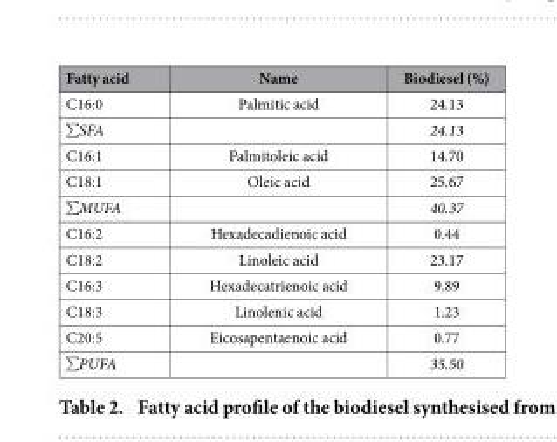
<table><thead><tr><td>Fatty acid</td><td>Name</td><td>Biodiesel (%)</td></tr></thead><tbody><tr><td>C16:0</td><td>Palmitic acid</td><td>24.13</td></tr><tr><td>∑SFA</td><td></td><td>24.13</td></tr><tr><td>C16:1</td><td>Palmitoleic acid</td><td>14.70</td></tr><tr><td>C18:1</td><td>Oleic acid</td><td>25.67</td></tr><tr><td>∑MUFA</td><td></td><td>40.37</td></tr><tr><td>C16:2</td><td>Hexadecadienoic acid</td><td>0.44</td></tr><tr><td>C18:2</td><td>Linoleic acid</td><td>23.17</td></tr><tr><td>C16:3</td><td>Hexadecatrienoic acid</td><td>9.89</td></tr><tr><td>C18:3</td><td>Linolenic acid</td><td>1.23</td></tr><tr><td>C20:5</td><td>Eicosapentaenoic acid</td><td>0.77</td></tr><tr><td>∑PUFA</td><td></td><td>35.50</td></tr></tbody></table>